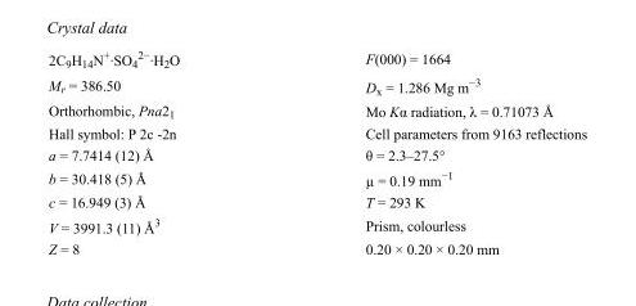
<table><tbody><tr><td>2C<sub>9</sub>H<sub>14</sub>N<sup>+</sup>·SO<sub>4</sub> <sup>2−</sup>·H<sub>2</sub>O</td><td>F(000) = 1664</td></tr><tr><td>M<sub>r</sub> = 386.50</td><td>D<sub>x</sub> = 1.286 Mg m<sup>−3</sup></td></tr><tr><td>Orthorhombic, Pna2<sub>1</sub></td><td>Mo Kα radiation, λ = 0.71073 Å</td></tr><tr><td>Hall symbol: P 2c -2n</td><td>Cell parameters from 9163 reflections</td></tr><tr><td>a = 7.7414 (12) Å</td><td>θ = 2.3–27.5°</td></tr><tr><td>b = 30.418 (5) Å</td><td>µ = 0.19 mm<sup>−1</sup></td></tr><tr><td>c = 16.949 (3) Å</td><td>T = 293 K</td></tr><tr><td>V = 3991.3 (11) Å<sup>3</sup></td><td>Prism, colourless</td></tr><tr><td>Z = 8</td><td>0.20 × 0.20 × 0.20 mm</td></tr></tbody></table>